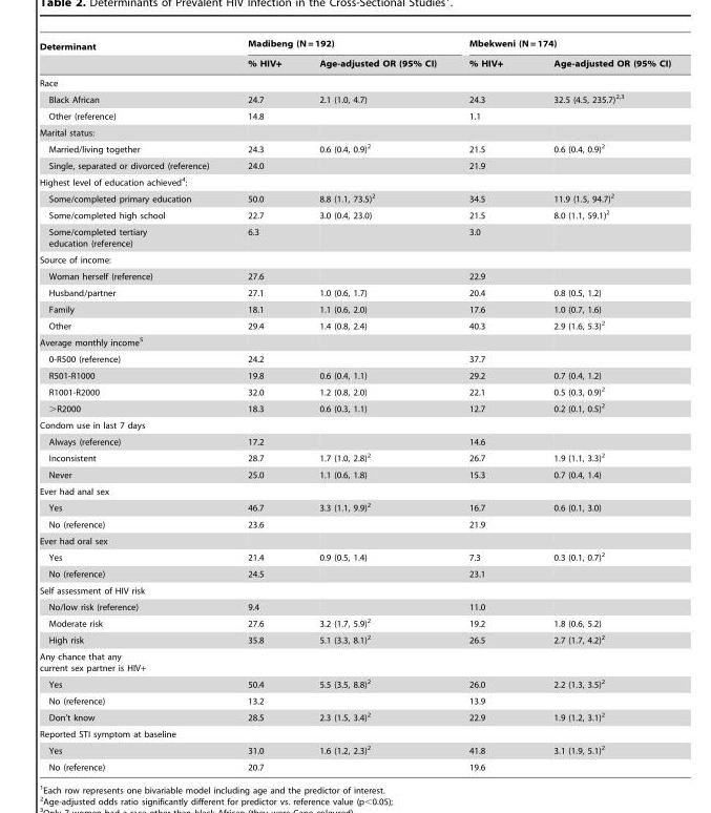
<table><thead><tr><td rowspan="2">Determinant</td><td colspan="2">Madibeng (N = 192)</td><td colspan="2">Mbekweni (N = 174)</td></tr><tr><td>% HIV+</td><td>Age-adjusted OR (95% CI)</td><td>% HIV+</td><td>Age-adjusted OR (95% CI)</td></tr></thead><tbody><tr><td colspan="5">Race</td></tr><tr><td>Black African</td><td>24.7</td><td>2.1 (1.0, 4.7)</td><td>24.3</td><td>32.5 (4.5, 235.7)<sup>2,</sup>3</td></tr><tr><td>Other (reference)</td><td>14.8</td><td></td><td>1.1</td><td></td></tr><tr><td colspan="5">Marital status:</td></tr><tr><td>Married/living together</td><td>24.3</td><td>0.6 (0.4, 0.9)<sup>2</sup></td><td>21.5</td><td>0.6 (0.4, 0.9)<sup>2</sup></td></tr><tr><td>Single, separated or divorced (reference)</td><td>24.0</td><td></td><td>21.9</td><td></td></tr><tr><td colspan="5">Highest level of education achieved<sup>4</sup>:</td></tr><tr><td>Some/completed primary education</td><td>50.0</td><td>8.8 (1.1, 73.5)<sup>2</sup></td><td>34.5</td><td>11.9 (1.5, 94.7)<sup>2</sup></td></tr><tr><td>Some/completed high school</td><td>22.7</td><td>3.0 (0.4, 23.0)</td><td>21.5</td><td>8.0 (1.1, 59.1)<sup>2</sup></td></tr><tr><td>Some/completed tertiary education (reference)</td><td>6.3</td><td></td><td>3.0</td><td></td></tr><tr><td colspan="5">Source of income:</td></tr><tr><td>Woman herself (reference)</td><td>27.6</td><td></td><td>22.9</td><td></td></tr><tr><td>Husband/partner</td><td>27.1</td><td>1.0 (0.6, 1.7)</td><td>20.4</td><td>0.8 (0.5, 1.2)</td></tr><tr><td>Family</td><td>18.1</td><td>1.1 (0.6, 2.0)</td><td>17.6</td><td>1.0 (0.7, 1.6)</td></tr><tr><td>Other</td><td>29.4</td><td>1.4 (0.8, 2.4)</td><td>40.3</td><td>2.9 (1.6, 5.3)<sup>2</sup></td></tr><tr><td colspan="5">Average monthly income<sup>5</sup></td></tr><tr><td>0-R500 (reference)</td><td>24.2</td><td></td><td>37.7</td><td></td></tr><tr><td>R501-R1000</td><td>19.8</td><td>0.6 (0.4, 1.1)</td><td>29.2</td><td>0.7 (0.4, 1.2)</td></tr><tr><td>R1001-R2000</td><td>32.0</td><td>1.2 (0.8, 2.0)</td><td>22.1</td><td>0.5 (0.3, 0.9)<sup>2</sup></td></tr><tr><td>&gt;R2000</td><td>18.3</td><td>0.6 (0.3, 1.1)</td><td>12.7</td><td>0.2 (0.1, 0.5)<sup>2</sup></td></tr><tr><td colspan="5">Condom use in last 7 days</td></tr><tr><td>Always (reference)</td><td>17.2</td><td></td><td>14.6</td><td></td></tr><tr><td>Inconsistent</td><td>28.7</td><td>1.7 (1.0, 2.8)<sup>2</sup></td><td>26.7</td><td>1.9 (1.1, 3.3)<sup>2</sup></td></tr><tr><td>Never</td><td>25.0</td><td>1.1 (0.6, 1.8)</td><td>15.3</td><td>0.7 (0.4, 1.4)</td></tr><tr><td colspan="5">Ever had anal sex</td></tr><tr><td>Yes</td><td>46.7</td><td>3.3 (1.1, 9.9)<sup>2</sup></td><td>16.7</td><td>0.6 (0.1, 3.0)</td></tr><tr><td>No (reference)</td><td>23.6</td><td></td><td>21.9</td><td></td></tr><tr><td colspan="5">Ever had oral sex</td></tr><tr><td>Yes</td><td>21.4</td><td>0.9 (0.5, 1.4)</td><td>7.3</td><td>0.3 (0.1, 0.7)<sup>2</sup></td></tr><tr><td>No (reference)</td><td>24.5</td><td></td><td>23.1</td><td></td></tr><tr><td colspan="5">Self assessment of HIV risk</td></tr><tr><td>No/low risk (reference)</td><td>9.4</td><td></td><td>11.0</td><td></td></tr><tr><td>Moderate risk</td><td>27.6</td><td>3.2 (1.7, 5.9)<sup>2</sup></td><td>19.2</td><td>1.8 (0.6, 5.2)</td></tr><tr><td>High risk</td><td>35.8</td><td>5.1 (3.3, 8.1)<sup>2</sup></td><td>26.5</td><td>2.7 (1.7, 4.2)<sup>2</sup></td></tr><tr><td colspan="5">Any chance that any current sex partner is HIV+</td></tr><tr><td>Yes</td><td>50.4</td><td>5.5 (3.5, 8.8)<sup>2</sup></td><td>26.0</td><td>2.2 (1.3, 3.5)<sup>2</sup></td></tr><tr><td>No (reference)</td><td>13.2</td><td></td><td>13.9</td><td></td></tr><tr><td>Don’t know</td><td>28.5</td><td>2.3 (1.5, 3.4)<sup>2</sup></td><td>22.9</td><td>1.9 (1.2, 3.1)<sup>2</sup></td></tr><tr><td colspan="5">Reported STI symptom at baseline</td></tr><tr><td>Yes</td><td>31.0</td><td>1.6 (1.2, 2.3)<sup>2</sup></td><td>41.8</td><td>3.1 (1.9, 5.1)<sup>2</sup></td></tr><tr><td>No (reference)</td><td>20.7</td><td></td><td>19.6</td><td></td></tr></tbody></table>